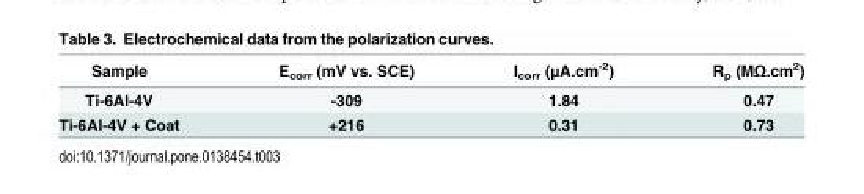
<table><thead><tr><td>Sample</td><td>E<sub>corr</sub> (mV vs. SCE)</td><td>I<sub>corr</sub> (μA.cm<sup>-2</sup>)</td><td>R<sub>p</sub> (MΩ.cm<sup>2</sup>)</td></tr></thead><tbody><tr><td>Ti-6Al-4V</td><td>-309</td><td>1.84</td><td>0.47</td></tr><tr><td>Ti-6Al-4V + Coat</td><td>+216</td><td>0.31</td><td>0.73</td></tr></tbody></table>